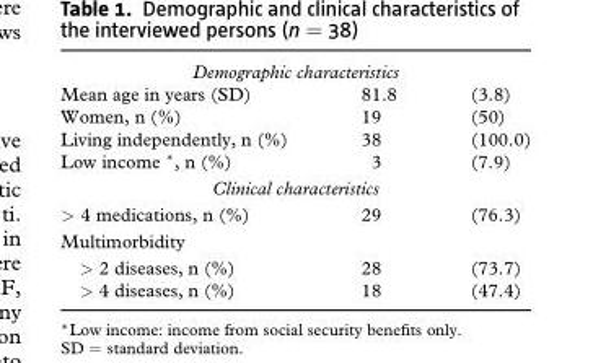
<table><tbody><tr><td colspan="3">Demographic characteristics</td></tr><tr><td>Mean age in years (SD)</td><td>81.8</td><td>(3.8)</td></tr><tr><td>Women, n (%)</td><td>19</td><td>(50)</td></tr><tr><td>Living independently, n (%)</td><td>38</td><td>(100.0)</td></tr><tr><td>Low income ∗, n (%)</td><td>3</td><td>(7.9)</td></tr><tr><td colspan="3">Clinical characteristics</td></tr><tr><td>&gt; 4 medications, n (%)</td><td>29</td><td>(76.3)</td></tr><tr><td colspan="3">Multimorbidity</td></tr><tr><td>&gt; 2 diseases, n (%)</td><td>28</td><td>(73.7)</td></tr><tr><td>&gt; 4 diseases, n (%)</td><td>18</td><td>(47.4)</td></tr></tbody></table>